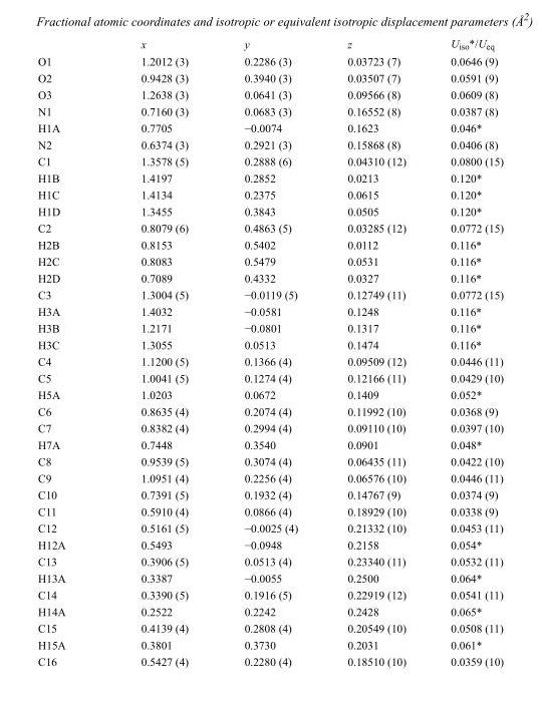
<table><thead><tr><td></td><td>x</td><td>y</td><td>z</td><td>U<sub>iso</sub>*/U<sub>eq</sub></td></tr></thead><tbody><tr><td>O1</td><td>1.2012 (3)</td><td>0.2286 (3)</td><td>0.03723 (7)</td><td>0.0646 (9)</td></tr><tr><td>O2</td><td>0.9428 (3)</td><td>0.3940 (3)</td><td>0.03507 (7)</td><td>0.0591 (9)</td></tr><tr><td>O3</td><td>1.2638 (3)</td><td>0.0641 (3)</td><td>0.09566 (8)</td><td>0.0609 (8)</td></tr><tr><td>N1</td><td>0.7160 (3)</td><td>0.0683 (3)</td><td>0.16552 (8)</td><td>0.0387 (8)</td></tr><tr><td>H1A</td><td>0.7705</td><td>−0.0074</td><td>0.1623</td><td>0.046*</td></tr><tr><td>N2</td><td>0.6374 (3)</td><td>0.2921 (3)</td><td>0.15868 (8)</td><td>0.0406 (8)</td></tr><tr><td>C1</td><td>1.3578 (5)</td><td>0.2888 (6)</td><td>0.04310 (12)</td><td>0.0800 (15)</td></tr><tr><td>H1B</td><td>1.4197</td><td>0.2852</td><td>0.0213</td><td>0.120*</td></tr><tr><td>H1C</td><td>1.4134</td><td>0.2375</td><td>0.0615</td><td>0.120*</td></tr><tr><td>H1D</td><td>1.3455</td><td>0.3843</td><td>0.0505</td><td>0.120*</td></tr><tr><td>C2</td><td>0.8079 (6)</td><td>0.4863 (5)</td><td>0.03285 (12)</td><td>0.0772 (15)</td></tr><tr><td>H2B</td><td>0.8153</td><td>0.5402</td><td>0.0112</td><td>0.116*</td></tr><tr><td>H2C</td><td>0.8083</td><td>0.5479</td><td>0.0531</td><td>0.116*</td></tr><tr><td>H2D</td><td>0.7089</td><td>0.4332</td><td>0.0327</td><td>0.116*</td></tr><tr><td>C3</td><td>1.3004 (5)</td><td>−0.0119 (5)</td><td>0.12749 (11)</td><td>0.0772 (15)</td></tr><tr><td>H3A</td><td>1.4032</td><td>−0.0581</td><td>0.1248</td><td>0.116*</td></tr><tr><td>H3B</td><td>1.2171</td><td>−0.0801</td><td>0.1317</td><td>0.116*</td></tr><tr><td>H3C</td><td>1.3055</td><td>0.0513</td><td>0.1474</td><td>0.116*</td></tr><tr><td>C4</td><td>1.1200 (5)</td><td>0.1366 (4)</td><td>0.09509 (12)</td><td>0.0446 (11)</td></tr><tr><td>C5</td><td>1.0041 (5)</td><td>0.1274 (4)</td><td>0.12166 (11)</td><td>0.0429 (10)</td></tr><tr><td>H5A</td><td>1.0203</td><td>0.0672</td><td>0.1409</td><td>0.052*</td></tr><tr><td>C6</td><td>0.8635 (4)</td><td>0.2074 (4)</td><td>0.11992 (10)</td><td>0.0368 (9)</td></tr><tr><td>C7</td><td>0.8382 (4)</td><td>0.2994 (4)</td><td>0.09110 (10)</td><td>0.0397 (10)</td></tr><tr><td>H7A</td><td>0.7448</td><td>0.3540</td><td>0.0901</td><td>0.048*</td></tr><tr><td>C8</td><td>0.9539 (5)</td><td>0.3074 (4)</td><td>0.06435 (11)</td><td>0.0422 (10)</td></tr><tr><td>C9</td><td>1.0951 (4)</td><td>0.2256 (4)</td><td>0.06576 (10)</td><td>0.0446 (11)</td></tr><tr><td>C10</td><td>0.7391 (5)</td><td>0.1932 (4)</td><td>0.14767 (9)</td><td>0.0374 (9)</td></tr><tr><td>C11</td><td>0.5910 (4)</td><td>0.0866 (4)</td><td>0.18929 (10)</td><td>0.0338 (9)</td></tr><tr><td>C12</td><td>0.5161 (5)</td><td>−0.0025 (4)</td><td>0.21332 (10)</td><td>0.0453 (11)</td></tr><tr><td>H12A</td><td>0.5493</td><td>−0.0948</td><td>0.2158</td><td>0.054*</td></tr><tr><td>C13</td><td>0.3906 (5)</td><td>0.0513 (4)</td><td>0.23340 (11)</td><td>0.0532 (11)</td></tr><tr><td>H13A</td><td>0.3387</td><td>−0.0055</td><td>0.2500</td><td>0.064*</td></tr><tr><td>C14</td><td>0.3390 (5)</td><td>0.1916 (5)</td><td>0.22919 (12)</td><td>0.0541 (11)</td></tr><tr><td>H14A</td><td>0.2522</td><td>0.2242</td><td>0.2428</td><td>0.065*</td></tr><tr><td>C15</td><td>0.4139 (4)</td><td>0.2808 (4)</td><td>0.20549 (10)</td><td>0.0508 (11)</td></tr><tr><td>H15A</td><td>0.3801</td><td>0.3730</td><td>0.2031</td><td>0.061*</td></tr><tr><td>C16</td><td>0.5427 (4)</td><td>0.2280 (4)</td><td>0.18510 (10)</td><td>0.0359 (10)</td></tr></tbody></table>